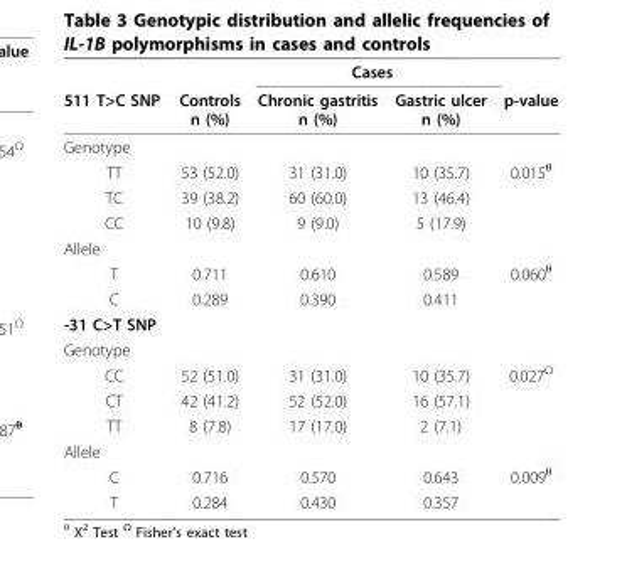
<table><thead><tr><td rowspan="2">511 T&gt;C SNP</td><td rowspan="2">Controls n (%)</td><td colspan="2">Cases</td><td rowspan="2">p-value</td></tr><tr><td>Chronic gastritis n (%)</td><td>Gastric ulcer n (%)</td></tr></thead><tbody><tr><td colspan="5">Genotype</td></tr><tr><td>TT</td><td>53 (52.0)</td><td>31 (31.0)</td><td>10 (35.7)</td><td>0.015<sup>θ</sup></td></tr><tr><td>TC</td><td>39 (38.2)</td><td>60 (60.0)</td><td>13 (46.4)</td><td></td></tr><tr><td>CC</td><td>10 (9.8)</td><td>9 (9.0)</td><td>5 (17.9)</td><td></td></tr><tr><td colspan="5">Allele</td></tr><tr><td>T</td><td>0.711</td><td>0.610</td><td>0.589</td><td>0.060<sup>θ</sup></td></tr><tr><td>C</td><td>0.289</td><td>0.390</td><td>0.411</td><td></td></tr><tr><td colspan="5">-31 C&gt;T SNP</td></tr><tr><td colspan="5">Genotype</td></tr><tr><td>CC</td><td>52 (51.0)</td><td>31 (31.0)</td><td>10 (35.7)</td><td>0.027<sup>Ω</sup></td></tr><tr><td>CT</td><td>42 (41.2)</td><td>52 (52.0)</td><td>16 (57.1)</td><td></td></tr><tr><td>TT</td><td>8 (7.8)</td><td>17 (17.0)</td><td>2 (7.1)</td><td></td></tr><tr><td colspan="5">Allele</td></tr><tr><td>C</td><td>0.716</td><td>0.570</td><td>0.643</td><td>0.009<sup>θ</sup></td></tr><tr><td>T</td><td>0.284</td><td>0.430</td><td>0.357</td><td></td></tr></tbody></table>